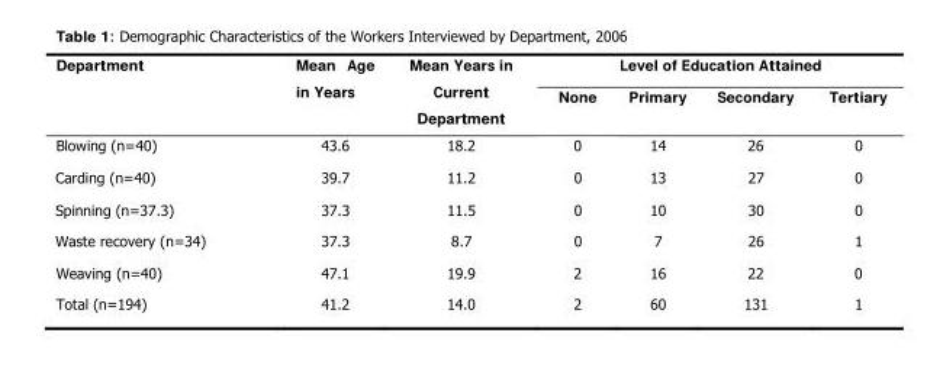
<table><thead><tr><td rowspan="2">Department</td><td rowspan="2">Mean Age in Years</td><td rowspan="2">Mean Years in Current Department</td><td colspan="4">Level of Education Attained</td></tr><tr><td>None</td><td>Primary</td><td>Secondary</td><td>Tertiary</td></tr></thead><tbody><tr><td>Blowing (n=40)</td><td>43.6</td><td>18.2</td><td>0</td><td>14</td><td>26</td><td>0</td></tr><tr><td>Carding (n=40)</td><td>39.7</td><td>11.2</td><td>0</td><td>13</td><td>27</td><td>0</td></tr><tr><td>Spinning (n=37.3)</td><td>37.3</td><td>11.5</td><td>0</td><td>10</td><td>30</td><td>0</td></tr><tr><td>Waste recovery (n=34)</td><td>37.3</td><td>8.7</td><td>0</td><td>7</td><td>26</td><td>1</td></tr><tr><td>Weaving (n=40)</td><td>47.1</td><td>19.9</td><td>2</td><td>16</td><td>22</td><td>0</td></tr><tr><td>Total (n=194)</td><td>41.2</td><td>14.0</td><td>2</td><td>60</td><td>131</td><td>1</td></tr></tbody></table>